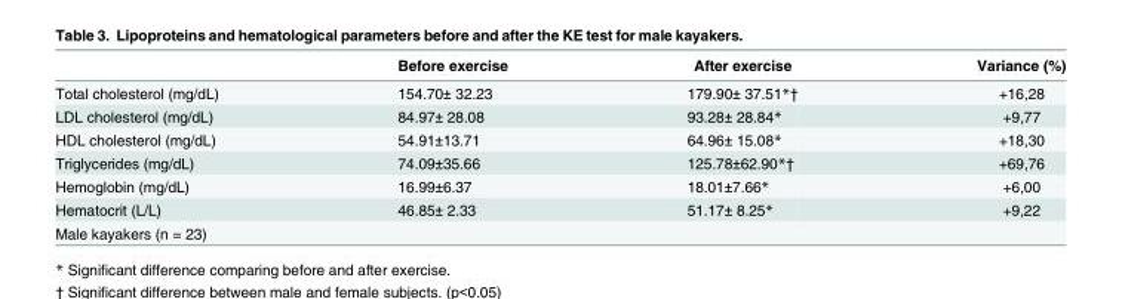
<table><thead><tr><td></td><td>Before exercise</td><td>After exercise</td><td>Variance (%)</td></tr></thead><tbody><tr><td>Total cholesterol (mg/dL)</td><td>154.70± 32.23</td><td>179.90± 37.51*†</td><td>+16,28</td></tr><tr><td>LDL cholesterol (mg/dL)</td><td>84.97± 28.08</td><td>93.28± 28.84*</td><td>+9,77</td></tr><tr><td>HDL cholesterol (mg/dL)</td><td>54.91±13.71</td><td>64.96± 15.08*</td><td>+18,30</td></tr><tr><td>Triglycerides (mg/dL)</td><td>74.09±35.66</td><td>125.78±62.90*†</td><td>+69,76</td></tr><tr><td>Hemoglobin (mg/dL)</td><td>16.99±6.37</td><td>18.01±7.66*</td><td>+6,00</td></tr><tr><td>Hematocrit (L/L)</td><td>46.85± 2.33</td><td>51.17± 8.25*</td><td>+9,22</td></tr><tr><td colspan="4">Male kayakers (n = 23)</td></tr></tbody></table>